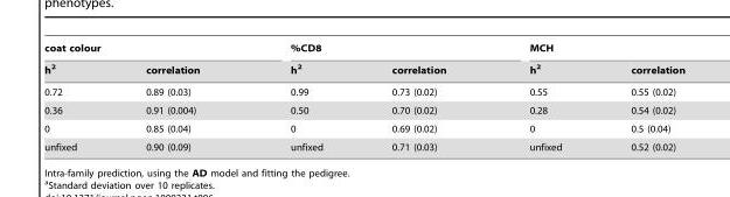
<table><thead><tr><td colspan="2">coat colour</td><td colspan="2">%CD8</td><td colspan="2">MCH</td></tr><tr><td>h<sup>2</sup></td><td>correlation</td><td>h<sup>2</sup></td><td>correlation</td><td>h<sup>2</sup></td><td>correlation</td></tr></thead><tbody><tr><td>0.72</td><td>0.89 (0.03)</td><td>0.99</td><td>0.73 (0.02)</td><td>0.55</td><td>0.55 (0.02)</td></tr><tr><td>0.36</td><td>0.91 (0.004)</td><td>0.50</td><td>0.70 (0.02)</td><td>0.28</td><td>0.54 (0.02)</td></tr><tr><td>0</td><td>0.85 (0.04)</td><td>0</td><td>0.69 (0.02)</td><td>0</td><td>0.5 (0.04)</td></tr><tr><td>unfixed</td><td>0.90 (0.09)</td><td>unfixed</td><td>0.71 (0.03)</td><td>unfixed</td><td>0.52 (0.02)</td></tr></tbody></table>